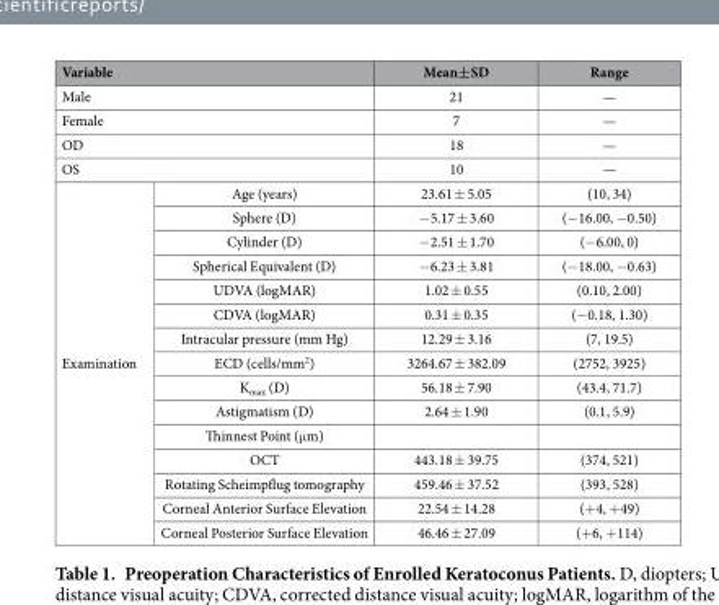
<table><thead><tr><td colspan="2">Variable</td><td>Mean±SD</td><td>Range</td></tr></thead><tbody><tr><td colspan="2">Male</td><td>21</td><td>—</td></tr><tr><td colspan="2">Female</td><td>7</td><td>—</td></tr><tr><td colspan="2">OD</td><td>18</td><td>—</td></tr><tr><td colspan="2">OS</td><td>10</td><td>—</td></tr><tr><td rowspan="15">Examination</td><td>Age (years)</td><td>23.61 ± 5.05</td><td>(10, 34)</td></tr><tr><td>Sphere (D)</td><td>− 5.17 ± 3.60</td><td>(− 16.00, − 0.50)</td></tr><tr><td>Cylinder (D)</td><td>− 2.51 ± 1.70</td><td>(− 6.00, 0)</td></tr><tr><td>Spherical Equivalent (D)</td><td>− 6.23 ± 3.81</td><td>(− 18.00, − 0.63)</td></tr><tr><td>UDVA (logMAR)</td><td>1.02 ± 0.55</td><td>(0.10, 2.00)</td></tr><tr><td>CDVA (logMAR)</td><td>0.31 ± 0.35</td><td>(− 0.18, 1.30)</td></tr><tr><td>Intracular pressure (mm Hg)</td><td>12.29 ± 3.16</td><td>(7, 19.5)</td></tr><tr><td>ECD (cells/mm<sup>2</sup>)</td><td>3264.67 ± 382.09</td><td>(2752, 3925)</td></tr><tr><td>K<sub>max</sub> (D)</td><td>56.18 ± 7.90</td><td>(43.4, 71.7)</td></tr><tr><td>Astigmatism (D)</td><td>2.64 ± 1.90</td><td>(0.1, 5.9)</td></tr><tr><td>Thinnest Point (μ m)</td><td></td><td></td></tr><tr><td>OCT</td><td>443.18 ± 39.75</td><td>(374, 521)</td></tr><tr><td>Rotating Scheimpflug tomography</td><td>459.46 ± 37.52</td><td>(393, 528)</td></tr><tr><td>Corneal Anterior Surface Elevation</td><td>22.54 ± 14.28</td><td>(+ 4, + 49)</td></tr><tr><td>Corneal Posterior Surface Elevation</td><td>46.46 ± 27.09</td><td>(+ 6, + 114)</td></tr></tbody></table>